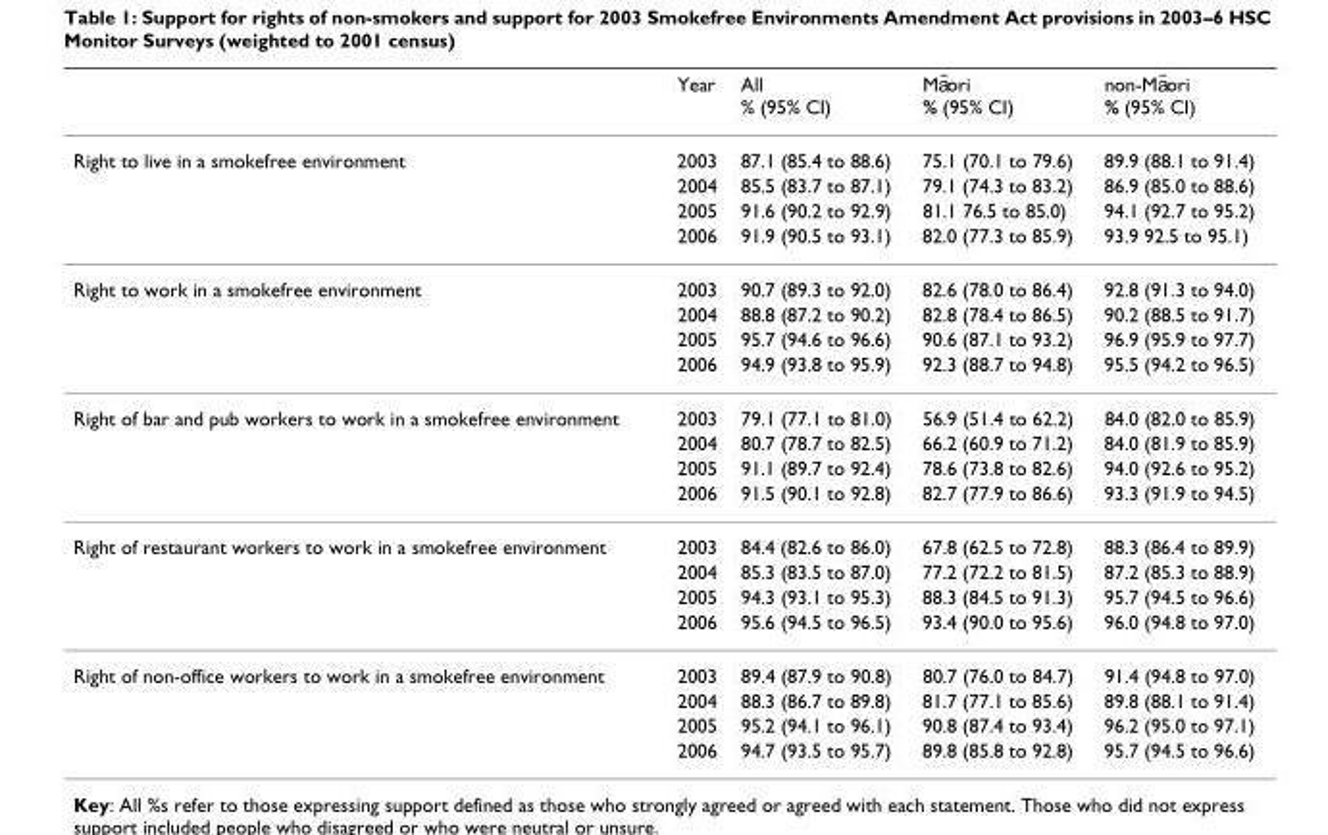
<table><thead><tr><td></td><td>Year</td><td>All % (95% CI)</td><td>Ma¯ori % (95% CI)</td><td>non-Ma¯ori % (95% CI)</td></tr></thead><tbody><tr><td rowspan="4">Right to live in a smokefree environment</td><td>2003</td><td>87.1 (85.4 to 88.6)</td><td>75.1 (70.1 to 79.6)</td><td>89.9 (88.1 to 91.4)</td></tr><tr><td>2004</td><td>85.5 (83.7 to 87.1)</td><td>79.1 (74.3 to 83.2)</td><td>86.9 (85.0 to 88.6)</td></tr><tr><td>2005</td><td>91.6 (90.2 to 92.9)</td><td>81.1 76.5 to 85.0)</td><td>94.1 (92.7 to 95.2)</td></tr><tr><td>2006</td><td>91.9 (90.5 to 93.1)</td><td>82.0 (77.3 to 85.9)</td><td>93.9 92.5 to 95.1)</td></tr><tr><td rowspan="4">Right to work in a smokefree environment</td><td>2003</td><td>90.7 (89.3 to 92.0)</td><td>82.6 (78.0 to 86.4)</td><td>92.8 (91.3 to 94.0)</td></tr><tr><td>2004</td><td>88.8 (87.2 to 90.2)</td><td>82.8 (78.4 to 86.5)</td><td>90.2 (88.5 to 91.7)</td></tr><tr><td>2005</td><td>95.7 (94.6 to 96.6)</td><td>90.6 (87.1 to 93.2)</td><td>96.9 (95.9 to 97.7)</td></tr><tr><td>2006</td><td>94.9 (93.8 to 95.9)</td><td>92.3 (88.7 to 94.8)</td><td>95.5 (94.2 to 96.5)</td></tr><tr><td rowspan="4">Right of bar and pub workers to work in a smokefree environment</td><td>2003</td><td>79.1 (77.1 to 81.0)</td><td>56.9 (51.4 to 62.2)</td><td>84.0 (82.0 to 85.9)</td></tr><tr><td>2004</td><td>80.7 (78.7 to 82.5)</td><td>66.2 (60.9 to 71.2)</td><td>84.0 (81.9 to 85.9)</td></tr><tr><td>2005</td><td>91.1 (89.7 to 92.4)</td><td>78.6 (73.8 to 82.6)</td><td>94.0 (92.6 to 95.2)</td></tr><tr><td>2006</td><td>91.5 (90.1 to 92.8)</td><td>82.7 (77.9 to 86.6)</td><td>93.3 (91.9 to 94.5)</td></tr><tr><td rowspan="4">Right of restaurant workers to work in a smokefree environment</td><td>2003</td><td>84.4 (82.6 to 86.0)</td><td>67.8 (62.5 to 72.8)</td><td>88.3 (86.4 to 89.9)</td></tr><tr><td>2004</td><td>85.3 (83.5 to 87.0)</td><td>77.2 (72.2 to 81.5)</td><td>87.2 (85.3 to 88.9)</td></tr><tr><td>2005</td><td>94.3 (93.1 to 95.3)</td><td>88.3 (84.5 to 91.3)</td><td>95.7 (94.5 to 96.6)</td></tr><tr><td>2006</td><td>95.6 (94.5 to 96.5)</td><td>93.4 (90.0 to 95.6)</td><td>96.0 (94.8 to 97.0)</td></tr><tr><td rowspan="4">Right of non-office workers to work in a smokefree environment</td><td>2003</td><td>89.4 (87.9 to 90.8)</td><td>80.7 (76.0 to 84.7)</td><td>91.4 (94.8 to 97.0)</td></tr><tr><td>2004</td><td>88.3 (86.7 to 89.8)</td><td>81.7 (77.1 to 85.6)</td><td>89.8 (88.1 to 91.4)</td></tr><tr><td>2005</td><td>95.2 (94.1 to 96.1)</td><td>90.8 (87.4 to 93.4)</td><td>96.2 (95.0 to 97.1)</td></tr><tr><td>2006</td><td>94.7 (93.5 to 95.7)</td><td>89.8 (85.8 to 92.8)</td><td>95.7 (94.5 to 96.6)</td></tr></tbody></table>